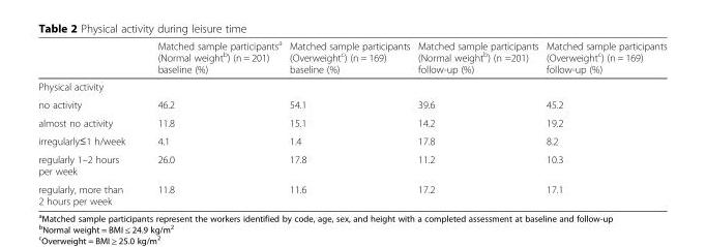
<table><thead><tr><td></td><td>Matched sample participants<sup>a</sup> (Normal weight<sup>b</sup>) (n = 201) baseline (%)</td><td>Matched sample participants (Overweight<sup>c</sup>) (n = 169) baseline (%)</td><td>Matched sample participants (Normal weight<sup>b</sup>) (n =201) follow-up (%)</td><td>Matched sample participants (Overweight<sup>c</sup>) (n = 169) follow-up (%)</td></tr></thead><tbody><tr><td colspan="5">Physical activity</td></tr><tr><td>no activity</td><td>46.2</td><td>54.1</td><td>39.6</td><td>45.2</td></tr><tr><td>almost no activity</td><td>11.8</td><td>15.1</td><td>14.2</td><td>19.2</td></tr><tr><td>irregularly≤1 h/week</td><td>4.1</td><td>1.4</td><td>17.8</td><td>8.2</td></tr><tr><td>regularly 1–2 hours per week</td><td>26.0</td><td>17.8</td><td>11.2</td><td>10.3</td></tr><tr><td>regularly, more than 2 hours per week</td><td>11.8</td><td>11.6</td><td>17.2</td><td>17.1</td></tr></tbody></table>